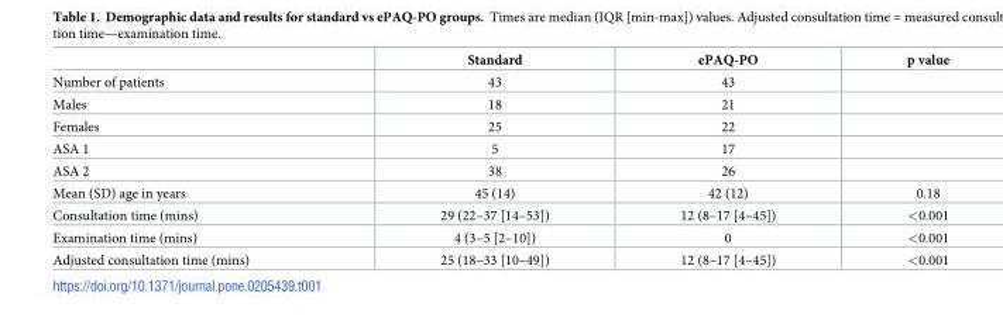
<table><thead><tr><td></td><td>Standard</td><td>ePAQ-PO</td><td>p value</td></tr></thead><tbody><tr><td>Number of patients</td><td>43</td><td>43</td><td></td></tr><tr><td>Males</td><td>18</td><td>21</td><td></td></tr><tr><td>Females</td><td>25</td><td>22</td><td></td></tr><tr><td>ASA 1</td><td>5</td><td>17</td><td></td></tr><tr><td>ASA 2</td><td>38</td><td>26</td><td></td></tr><tr><td>Mean (SD) age in years</td><td>45 (14)</td><td>42 (12)</td><td>0.18</td></tr><tr><td>Consultation time (mins)</td><td>29 (22–37 [14–53])</td><td>12 (8–17 [4–45])</td><td>&lt;0.001</td></tr><tr><td>Examination time (mins)</td><td>4 (3–5 [2–10])</td><td>0</td><td>&lt;0.001</td></tr><tr><td>Adjusted consultation time (mins)</td><td>25 (18–33 [10–49])</td><td>12 (8–17 [4–45])</td><td>&lt;0.001</td></tr></tbody></table>